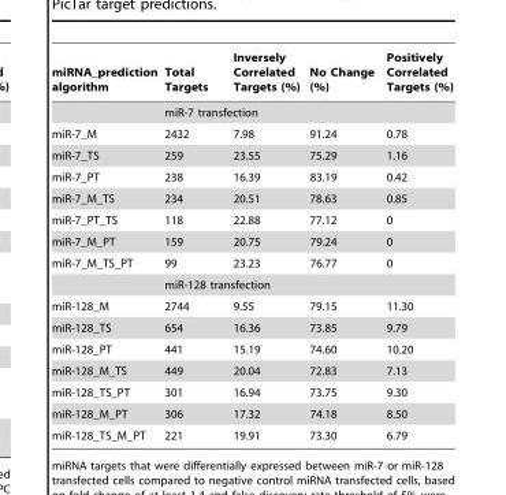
<table><thead><tr><td>miRNA_prediction algorithm</td><td>Total Targets</td><td>Inversely Correlated Targets (%)</td><td>No Change (%)</td><td>Positively Correlated Targets (%)</td></tr></thead><tbody><tr><td></td><td colspan="4">miR-7 transfection</td></tr><tr><td>miR-7_M</td><td>2432</td><td>7.98</td><td>91.24</td><td>0.78</td></tr><tr><td>miR-7_TS</td><td>259</td><td>23.55</td><td>75.29</td><td>1.16</td></tr><tr><td>miR-7_PT</td><td>238</td><td>16.39</td><td>83.19</td><td>0.42</td></tr><tr><td>miR-7_M_TS</td><td>234</td><td>20.51</td><td>78.63</td><td>0.85</td></tr><tr><td>miR-7_PT_TS</td><td>118</td><td>22.88</td><td>77.12</td><td>0</td></tr><tr><td>miR-7_M_PT</td><td>159</td><td>20.75</td><td>79.24</td><td>0</td></tr><tr><td rowspan="2">miR-7_M_TS_PT</td><td>99</td><td>23.23</td><td>76.77</td><td>0</td></tr><tr><td colspan="4">miR-128 transfection</td></tr><tr><td>miR-128_M</td><td>2744</td><td>9.55</td><td>79.15</td><td>11.30</td></tr><tr><td>miR-128_TS</td><td>654</td><td>16.36</td><td>73.85</td><td>9.79</td></tr><tr><td>miR-128_PT</td><td>441</td><td>15.19</td><td>74.60</td><td>10.20</td></tr><tr><td>miR-128_M_TS</td><td>449</td><td>20.04</td><td>72.83</td><td>7.13</td></tr><tr><td>miR-128_TS_PT</td><td>301</td><td>16.94</td><td>73.75</td><td>9.30</td></tr><tr><td>miR-128_M_PT</td><td>306</td><td>17.32</td><td>74.18</td><td>8.50</td></tr><tr><td>miR-128_TS_M_PT</td><td>221</td><td>19.91</td><td>73.30</td><td>6.79</td></tr></tbody></table>